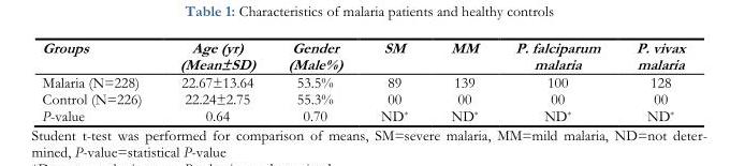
<table><thead><tr><td>Groups</td><td>Age (yr) (Mean±SD)</td><td>Gender (Male%)</td><td>SM</td><td>MM</td><td>P. falciparum malaria</td><td>P. vivax malaria</td></tr></thead><tbody><tr><td>Malaria (N=228)</td><td>22.67±13.64</td><td>53.5%</td><td>89</td><td>139</td><td>100</td><td>128</td></tr><tr><td>Control (N=226)</td><td>22.24±2.75</td><td>55.3%</td><td>00</td><td>00</td><td>00</td><td>00</td></tr><tr><td>P-value</td><td>0.64</td><td>0.70</td><td>ND*</td><td>ND*</td><td>ND*</td><td>ND*</td></tr></tbody></table>